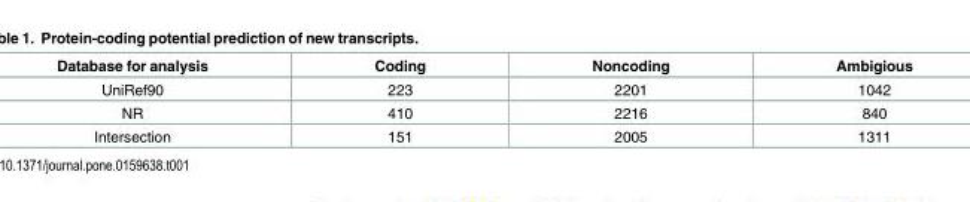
<table><thead><tr><td>Database for analysis</td><td>Coding</td><td>Noncoding</td><td>Ambigious</td></tr></thead><tbody><tr><td>UniRef90</td><td>223</td><td>2201</td><td>1042</td></tr><tr><td>NR</td><td>410</td><td>2216</td><td>840</td></tr><tr><td>Intersection</td><td>151</td><td>2005</td><td>1311</td></tr></tbody></table>